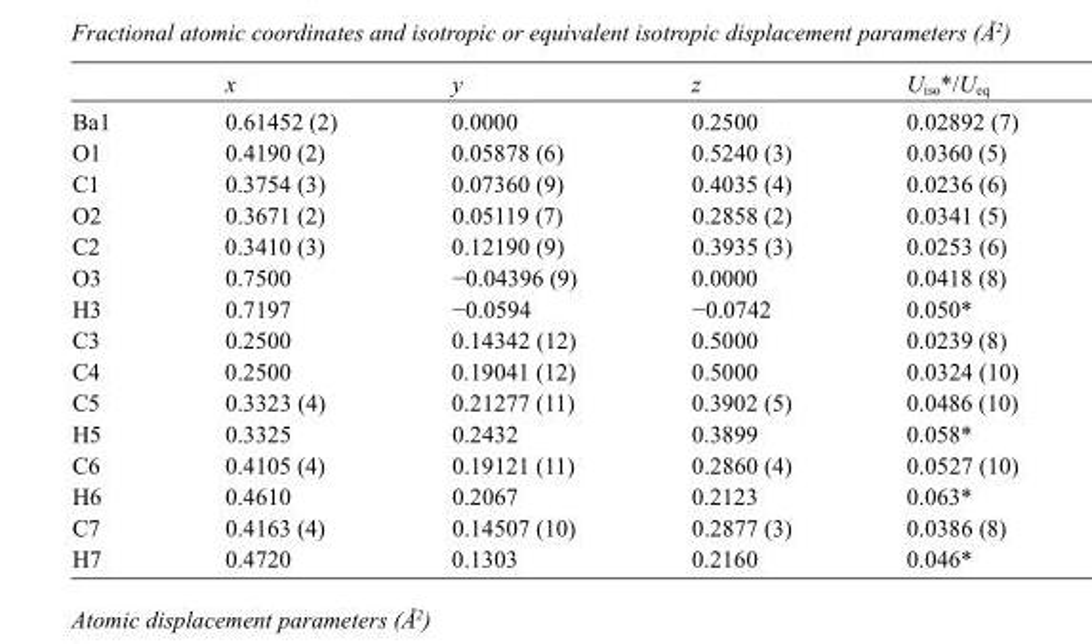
<table><thead><tr><td></td><td>x</td><td>y</td><td>z</td><td>U<sub>iso</sub>*/U<sub>eq</sub></td></tr></thead><tbody><tr><td>Ba1</td><td>0.61452 (2)</td><td>0.0000</td><td>0.2500</td><td>0.02892 (7)</td></tr><tr><td>O1</td><td>0.4190 (2)</td><td>0.05878 (6)</td><td>0.5240 (3)</td><td>0.0360 (5)</td></tr><tr><td>C1</td><td>0.3754 (3)</td><td>0.07360 (9)</td><td>0.4035 (4)</td><td>0.0236 (6)</td></tr><tr><td>O2</td><td>0.3671 (2)</td><td>0.05119 (7)</td><td>0.2858 (2)</td><td>0.0341 (5)</td></tr><tr><td>C2</td><td>0.3410 (3)</td><td>0.12190 (9)</td><td>0.3935 (3)</td><td>0.0253 (6)</td></tr><tr><td>O3</td><td>0.7500</td><td>−0.04396 (9)</td><td>0.0000</td><td>0.0418 (8)</td></tr><tr><td>H3</td><td>0.7197</td><td>−0.0594</td><td>−0.0742</td><td>0.050*</td></tr><tr><td>C3</td><td>0.2500</td><td>0.14342 (12)</td><td>0.5000</td><td>0.0239 (8)</td></tr><tr><td>C4</td><td>0.2500</td><td>0.19041 (12)</td><td>0.5000</td><td>0.0324 (10)</td></tr><tr><td>C5</td><td>0.3323 (4)</td><td>0.21277 (11)</td><td>0.3902 (5)</td><td>0.0486 (10)</td></tr><tr><td>H5</td><td>0.3325</td><td>0.2432</td><td>0.3899</td><td>0.058*</td></tr><tr><td>C6</td><td>0.4105 (4)</td><td>0.19121 (11)</td><td>0.2860 (4)</td><td>0.0527 (10)</td></tr><tr><td>H6</td><td>0.4610</td><td>0.2067</td><td>0.2123</td><td>0.063*</td></tr><tr><td>C7</td><td>0.4163 (4)</td><td>0.14507 (10)</td><td>0.2877 (3)</td><td>0.0386 (8)</td></tr><tr><td>H7</td><td>0.4720</td><td>0.1303</td><td>0.2160</td><td>0.046*</td></tr></tbody></table>